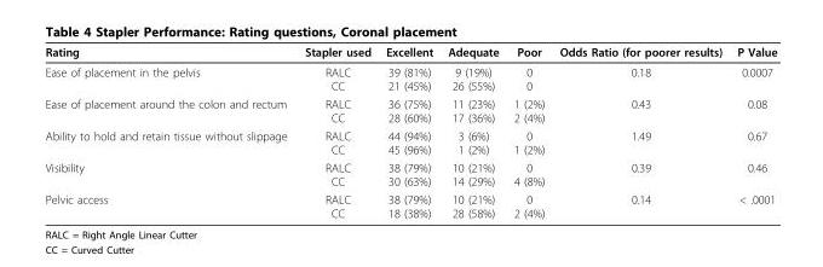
<table><thead><tr><td>Rating</td><td>Stapler used</td><td>Excellent</td><td>Adequate</td><td>Poor</td><td>Odds Ratio (for poorer results)</td><td>P Value</td></tr></thead><tbody><tr><td>Ease of placement in the pelvis</td><td>RALC CC</td><td>39 (81%) 21 (45%)</td><td>9 (19%) 26 (55%)</td><td>0 0</td><td>0.18</td><td>0.0007</td></tr><tr><td>Ease of placement around the colon and rectum</td><td>RALC CC</td><td>36 (75%) 28 (60%)</td><td>11 (23%) 17 (36%)</td><td>1 (2%) 2 (4%)</td><td>0.43</td><td>0.08</td></tr><tr><td>Ability to hold and retain tissue without slippage</td><td>RALC CC</td><td>44 (94%) 45 (96%)</td><td>3 (6%) 1 (2%)</td><td>0 1 (2%)</td><td>1.49</td><td>0.67</td></tr><tr><td>Visibility</td><td>RALC CC</td><td>38 (79%) 30 (63%)</td><td>10 (21%) 14 (29%)</td><td>0 4 (8%)</td><td>0.39</td><td>0.46</td></tr><tr><td>Pelvic access</td><td>RALC CC</td><td>38 (79%) 18 (38%)</td><td>10 (21%) 28 (58%)</td><td>0 2 (4%)</td><td>0.14</td><td>&lt; .0001</td></tr></tbody></table>